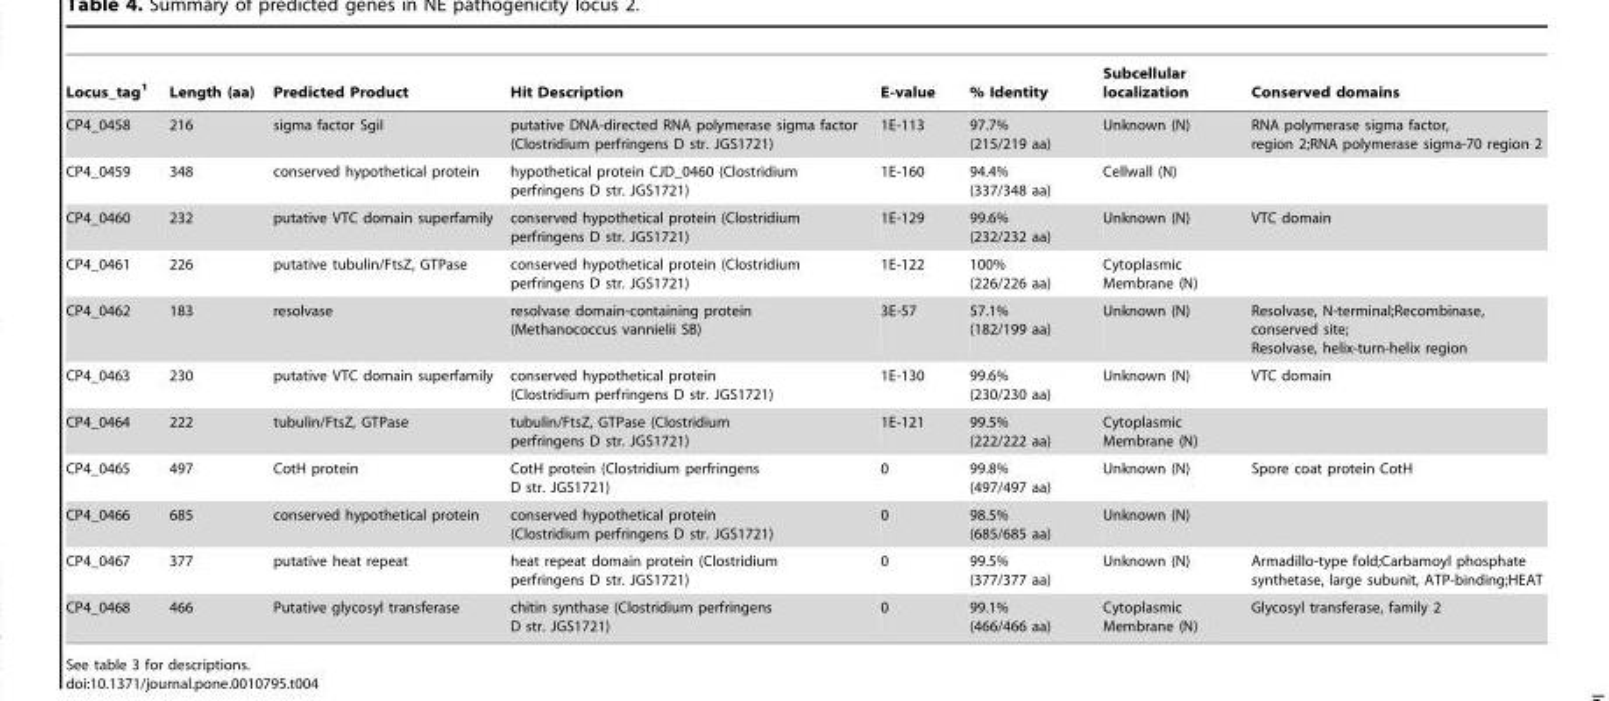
<table><thead><tr><td>Locus_tag<sup>1</sup></td><td>Length (aa)</td><td>Predicted Product</td><td>Hit Description</td><td>E-value</td><td>% Identity</td><td>Subcellular localization</td><td>Conserved domains</td></tr></thead><tbody><tr><td>CP4_0458</td><td>216</td><td>sigma factor SgiI</td><td>putative DNA-directed RNA polymerase sigma factor (Clostridium perfringens D str. JGS1721)</td><td>1E-113</td><td>97.7% (215/219 aa)</td><td>Unknown (N)</td><td>RNA polymerase sigma factor, region 2;RNA polymerase sigma-70 region 2</td></tr><tr><td>CP4_0459</td><td>348</td><td>conserved hypothetical protein</td><td>hypothetical protein CJD_0460 (Clostridium perfringens D str. JGS1721)</td><td>1E-160</td><td>94.4% (337/348 aa)</td><td>Cellwall (N)</td><td></td></tr><tr><td>CP4_0460</td><td>232</td><td>putative VTC domain superfamily</td><td>conserved hypothetical protein (Clostridium perfringens D str. JGS1721)</td><td>1E-129</td><td>99.6% (232/232 aa)</td><td>Unknown (N)</td><td>VTC domain</td></tr><tr><td>CP4_0461</td><td>226</td><td>putative tubulin/FtsZ, GTPase</td><td>conserved hypothetical protein (Clostridium perfringens D str. JGS1721)</td><td>1E-122</td><td>100% (226/226 aa)</td><td>Cytoplasmic Membrane (N)</td><td></td></tr><tr><td>CP4_0462</td><td>183</td><td>resolvase</td><td>resolvase domain-containing protein (Methanococcus vannielii SB)</td><td>3E-57</td><td>57.1% (182/199 aa)</td><td>Unknown (N)</td><td>Resolvase, N-terminal;Recombinase, conserved site; Resolvase, helix-turn-helix region</td></tr><tr><td>CP4_0463</td><td>230</td><td>putative VTC domain superfamily</td><td>conserved hypothetical protein (Clostridium perfringens D str. JGS1721)</td><td>1E-130</td><td>99.6% (230/230 aa)</td><td>Unknown (N)</td><td>VTC domain</td></tr><tr><td>CP4_0464</td><td>222</td><td>tubulin/FtsZ, GTPase</td><td>tubulin/FtsZ, GTPase (Clostridium perfringens D str. JGS1721)</td><td>1E-121</td><td>99.5% (222/222 aa)</td><td>Cytoplasmic Membrane (N)</td><td></td></tr><tr><td>CP4_0465</td><td>497</td><td>CotH protein</td><td>CotH protein (Clostridium perfringens D str. JGS1721)</td><td>0</td><td>99.8% (497/497 aa)</td><td>Unknown (N)</td><td>Spore coat protein CotH</td></tr><tr><td>CP4_0466</td><td>685</td><td>conserved hypothetical protein</td><td>conserved hypothetical protein (Clostridium perfringens D str. JGS1721)</td><td>0</td><td>98.5% (685/685 aa)</td><td>Unknown (N)</td><td></td></tr><tr><td>CP4_0467</td><td>377</td><td>putative heat repeat</td><td>heat repeat domain protein (Clostridium perfringens D str. JGS1721)</td><td>0</td><td>99.5% (377/377 aa)</td><td>Unknown (N)</td><td>Armadillo-type fold;Carbamoyl phosphate synthetase, large subunit, ATP-binding;HEAT</td></tr><tr><td>CP4_0468</td><td>466</td><td>Putative glycosyl transferase</td><td>chitin synthase (Clostridium perfringens D str. JGS1721)</td><td>0</td><td>99.1% (466/466 aa)</td><td>Cytoplasmic Membrane (N)</td><td>Glycosyl transferase, family 2</td></tr></tbody></table>